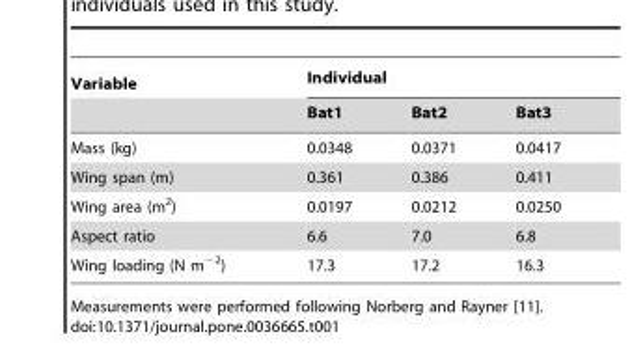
<table><thead><tr><td rowspan="2">Variable</td><td colspan="3">Individual</td></tr><tr><td>Bat1</td><td>Bat2</td><td>Bat3</td></tr></thead><tbody><tr><td>Mass (kg)</td><td>0.0348</td><td>0.0371</td><td>0.0417</td></tr><tr><td>Wing span (m)</td><td>0.361</td><td>0.386</td><td>0.411</td></tr><tr><td>Wing area (m<sup>2</sup>)</td><td>0.0197</td><td>0.0212</td><td>0.0250</td></tr><tr><td>Aspect ratio</td><td>6.6</td><td>7.0</td><td>6.8</td></tr><tr><td>Wing loading (N m<sup>−2</sup>)</td><td>17.3</td><td>17.2</td><td>16.3</td></tr></tbody></table>